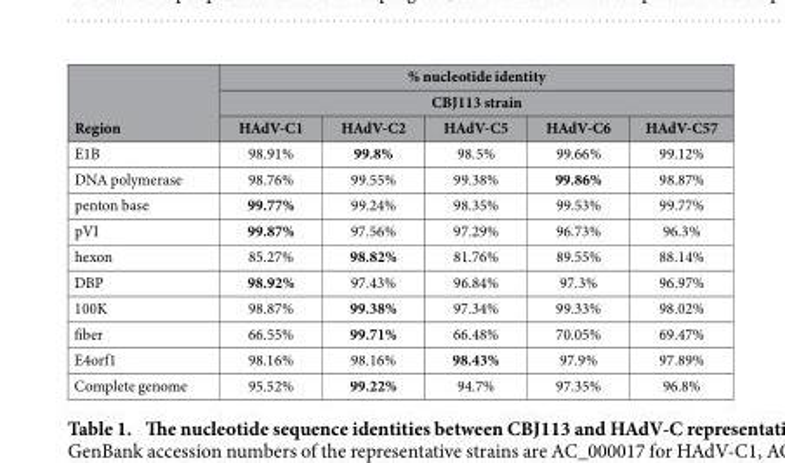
<table><thead><tr><td rowspan="3">Region</td><td rowspan="2" colspan="5">% nucleotide identity CBJ113 strain</td></tr><tr></tr><tr><td>HAdV-C1</td><td>HAdV-C2</td><td>HAdV-C5</td><td>HAdV-C6</td><td>HAdV-C57</td></tr></thead><tbody><tr><td>E1B</td><td>98.91%</td><td>99.8%</td><td>98.5%</td><td>99.66%</td><td>99.12%</td></tr><tr><td>DNA polymerase</td><td>98.76%</td><td>99.55%</td><td>99.38%</td><td>99.86%</td><td>98.87%</td></tr><tr><td>penton base</td><td>99.77%</td><td>99.24%</td><td>98.35%</td><td>99.53%</td><td>99.77%</td></tr><tr><td>pVI</td><td>99.87%</td><td>97.56%</td><td>97.29%</td><td>96.73%</td><td>96.3%</td></tr><tr><td>hexon</td><td>85.27%</td><td>98.82%</td><td>81.76%</td><td>89.55%</td><td>88.14%</td></tr><tr><td>DBP</td><td>98.92%</td><td>97.43%</td><td>96.84%</td><td>97.3%</td><td>96.97%</td></tr><tr><td>100K</td><td>98.87%</td><td>99.38%</td><td>97.34%</td><td>99.33%</td><td>98.02%</td></tr><tr><td>fiber</td><td>66.55%</td><td>99.71%</td><td>66.48%</td><td>70.05%</td><td>69.47%</td></tr><tr><td>E4orf1</td><td>98.16%</td><td>98.16%</td><td>98.43%</td><td>97.9%</td><td>97.89%</td></tr><tr><td>Complete genome</td><td>95.52%</td><td>99.22%</td><td>94.7%</td><td>97.35%</td><td>96.8%</td></tr></tbody></table>